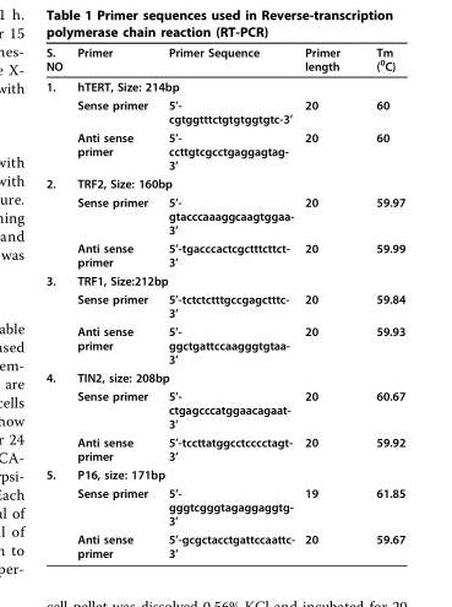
<table><thead><tr><td>S. NO</td><td>Primer</td><td>Primer Sequence</td><td>Primer length</td><td>Tm (<sup>0</sup>C)</td></tr></thead><tbody><tr><td rowspan="3">1.</td><td colspan="4">hTERT, Size: 214bp</td></tr><tr><td>Sense primer</td><td>5’- cgtggtttctgtgtggtgtc-3’</td><td>20</td><td>60</td></tr><tr><td>Anti sense primer</td><td>5’- ccttgtcgcctgaggagtag- 3’</td><td>20</td><td>60</td></tr><tr><td rowspan="3">2.</td><td colspan="4">TRF2, Size: 160bp</td></tr><tr><td>Sense primer</td><td>5’- gtacccaaaggcaagtggaa- 3’</td><td>20</td><td>59.97</td></tr><tr><td>Anti sense primer</td><td>5’-tgacccactcgctttcttct- 3’</td><td>20</td><td>59.99</td></tr><tr><td rowspan="3">3.</td><td colspan="4">TRF1, Size:212bp</td></tr><tr><td>Sense primer</td><td>5’-tctctctttgccgagctttc- 3’</td><td>20</td><td>59.84</td></tr><tr><td>Anti sense primer</td><td>5’- ggctgattccaagggtgtaa- 3’</td><td>20</td><td>59.93</td></tr><tr><td rowspan="3">4.</td><td colspan="4">TIN2, size: 208bp</td></tr><tr><td>Sense primer</td><td>5’- ctgagcccatggaacagaat- 3’</td><td>20</td><td>60.67</td></tr><tr><td>Anti sense primer</td><td>5’-tccttatggcctcccctagt- 3’</td><td>20</td><td>59.92</td></tr><tr><td rowspan="3">5.</td><td colspan="4">P16, size: 171bp</td></tr><tr><td>Sense primer</td><td>5’- gggtcgggtagaggaggtg- 3’</td><td>19</td><td>61.85</td></tr><tr><td>Anti sense primer</td><td>5’-gcgctacctgattccaattc- 3’</td><td>20</td><td>59.67</td></tr></tbody></table>